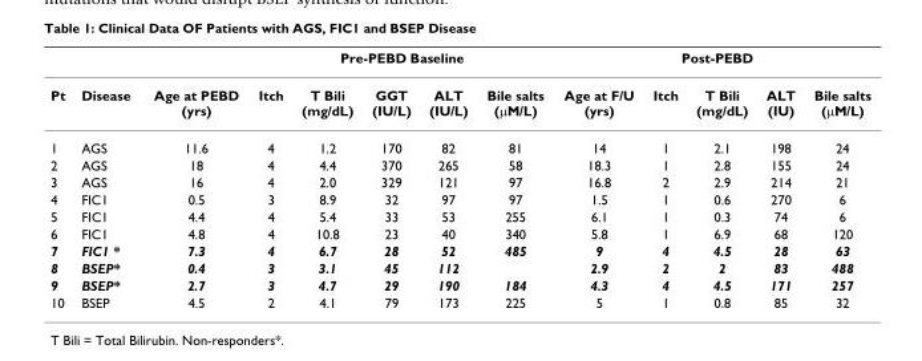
<table><thead><tr><td rowspan="2">Pt</td><td rowspan="2">Disease</td><td rowspan="2">Age at PEBD (yrs)</td><td colspan="5">Pre-PEBD Baseline</td><td colspan="5">Post-PEBD</td></tr><tr><td>Itch</td><td>T Bili (mg/dL)</td><td>GGT (IU/L)</td><td>ALT (IU/L)</td><td>Bile salts (μM/L)</td><td>Age at F/U (yrs)</td><td>Itch</td><td>T Bili (mg/dL)</td><td>ALT (IU)</td><td>Bile salts (μM/L)</td></tr></thead><tbody><tr><td>1</td><td>AGS</td><td>11.6</td><td>4</td><td>1.2</td><td>170</td><td>82</td><td>81</td><td>14</td><td>1</td><td>2.1</td><td>198</td><td>24</td></tr><tr><td>2</td><td>AGS</td><td>18</td><td>4</td><td>4.4</td><td>370</td><td>265</td><td>58</td><td>18.3</td><td>1</td><td>2.8</td><td>155</td><td>24</td></tr><tr><td>3</td><td>AGS</td><td>16</td><td>4</td><td>2.0</td><td>329</td><td>121</td><td>97</td><td>16.8</td><td>2</td><td>2.9</td><td>214</td><td>21</td></tr><tr><td>4</td><td>FIC1</td><td>0.5</td><td>3</td><td>8.9</td><td>32</td><td>97</td><td>97</td><td>1.5</td><td>1</td><td>0.6</td><td>270</td><td>6</td></tr><tr><td>5</td><td>FIC1</td><td>4.4</td><td>4</td><td>5.4</td><td>33</td><td>53</td><td>255</td><td>6.1</td><td>1</td><td>0.3</td><td>74</td><td>6</td></tr><tr><td>6</td><td>FIC1</td><td>4.8</td><td>4</td><td>10.8</td><td>23</td><td>40</td><td>340</td><td>5.8</td><td>1</td><td>6.9</td><td>68</td><td>120</td></tr><tr><td>7</td><td>FIC1 *</td><td>7.3</td><td>4</td><td>6.7</td><td>28</td><td>52</td><td>485</td><td>9</td><td>4</td><td>4.5</td><td>28</td><td>63</td></tr><tr><td>8</td><td>BSEP*</td><td>0.4</td><td>3</td><td>3.1</td><td>45</td><td>112</td><td></td><td>2.9</td><td>2</td><td>2</td><td>83</td><td>488</td></tr><tr><td>9</td><td>BSEP*</td><td>2.7</td><td>3</td><td>4.7</td><td>29</td><td>190</td><td>184</td><td>4.3</td><td>4</td><td>4.5</td><td>171</td><td>257</td></tr><tr><td>10</td><td>BSEP</td><td>4.5</td><td>2</td><td>4.1</td><td>79</td><td>173</td><td>225</td><td>5</td><td>1</td><td>0.8</td><td>85</td><td>32</td></tr></tbody></table>